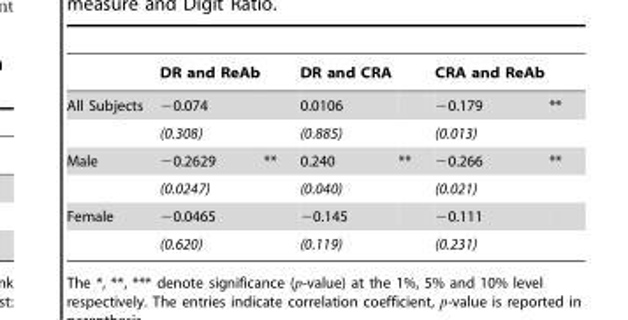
<table><thead><tr><td></td><td>DR and ReAb</td><td></td><td>DR and CRA</td><td></td><td>CRA and ReAb</td><td></td></tr></thead><tbody><tr><td rowspan="2">All Subjects</td><td>−0.074</td><td></td><td>0.0106</td><td></td><td>−0.179</td><td>**</td></tr><tr><td>(0.308)</td><td></td><td>(0.885)</td><td></td><td>(0.013)</td><td></td></tr><tr><td rowspan="2">Male</td><td>−0.2629</td><td>**</td><td>0.240</td><td>**</td><td>−0.266</td><td>**</td></tr><tr><td>(0.0247)</td><td></td><td>(0.040)</td><td></td><td>(0.021)</td><td></td></tr><tr><td rowspan="2">Female</td><td>−0.0465</td><td></td><td>−0.145</td><td></td><td>−0.111</td><td></td></tr><tr><td>(0.620)</td><td></td><td>(0.119)</td><td></td><td>(0.231)</td><td></td></tr></tbody></table>